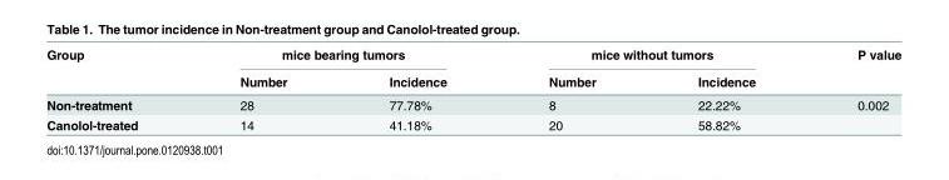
<table><thead><tr><td rowspan="2">Group</td><td colspan="2">mice bearing tumors</td><td colspan="2">mice without tumors</td><td rowspan="2">P value</td></tr><tr><td>Number</td><td>Incidence</td><td>Number</td><td>Incidence</td></tr></thead><tbody><tr><td>Non-treatment</td><td>28</td><td>77.78%</td><td>8</td><td>22.22%</td><td>0.002</td></tr><tr><td>Canolol-treated</td><td>14</td><td>41.18%</td><td>20</td><td>58.82%</td><td></td></tr></tbody></table>